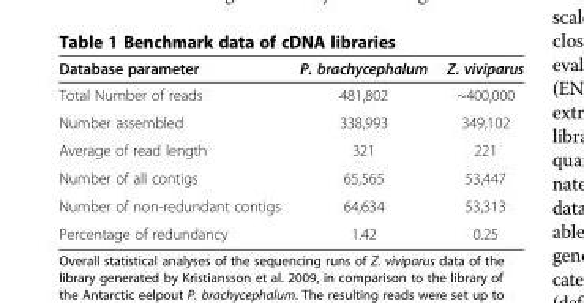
<table><thead><tr><td>Database parameter</td><td>P. brachycephalum</td><td>Z. viviparus</td></tr></thead><tbody><tr><td>Total Number of reads</td><td>481,802</td><td>~400,000</td></tr><tr><td>Number assembled</td><td>338,993</td><td>349,102</td></tr><tr><td>Average of read length</td><td>321</td><td>221</td></tr><tr><td>Number of all contigs</td><td>65,565</td><td>53,447</td></tr><tr><td>Number of non-redundant contigs</td><td>64,634</td><td>53,313</td></tr><tr><td>Percentage of redundancy</td><td>1.42</td><td>0.25</td></tr></tbody></table>